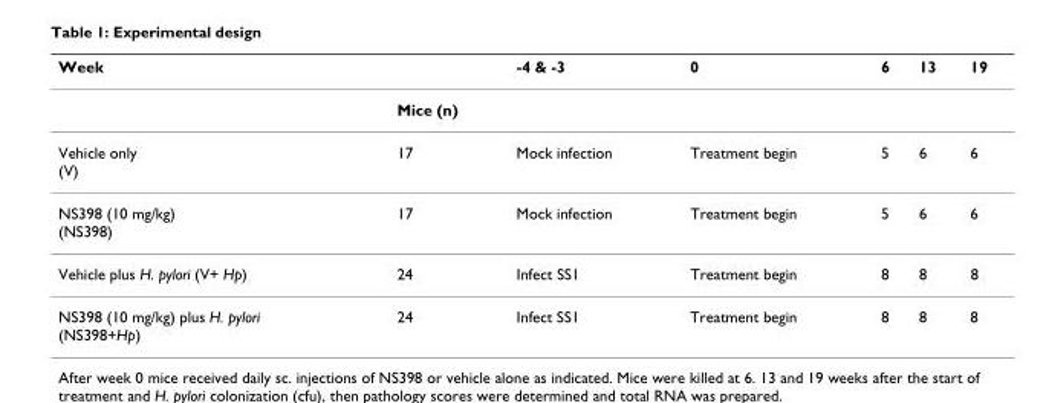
<table><thead><tr><td>Week</td><td></td><td>-4 &amp; -3</td><td>0</td><td>6</td><td>13</td><td>19</td></tr></thead><tbody><tr><td></td><td>Mice (n)</td><td></td><td></td><td></td><td></td><td></td></tr><tr><td>Vehicle only (V)</td><td>17</td><td>Mock infection</td><td>Treatment begin</td><td>5</td><td>6</td><td>6</td></tr><tr><td>NS398 (10 mg/kg) (NS398)</td><td>17</td><td>Mock infection</td><td>Treatment begin</td><td>5</td><td>6</td><td>6</td></tr><tr><td>Vehicle plus H. pylori (V+ Hp)</td><td>24</td><td>Infect SS1</td><td>Treatment begin</td><td>8</td><td>8</td><td>8</td></tr><tr><td>NS398 (10 mg/kg) plus H. pylori (NS398+Hp)</td><td>24</td><td>Infect SS1</td><td>Treatment begin</td><td>8</td><td>8</td><td>8</td></tr></tbody></table>